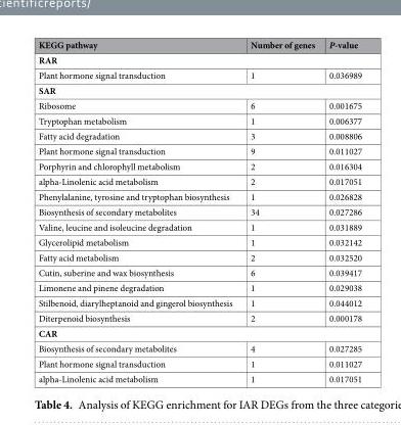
<table><thead><tr><td>KEGG pathway</td><td>Number of genes</td><td>P-value</td></tr></thead><tbody><tr><td colspan="3">RAR</td></tr><tr><td>Plant hormone signal transduction</td><td>1</td><td>0.036989</td></tr><tr><td colspan="3">SAR</td></tr><tr><td>Ribosome</td><td>6</td><td>0.001675</td></tr><tr><td>Tryptophan metabolism</td><td>1</td><td>0.006377</td></tr><tr><td>Fatty acid degradation</td><td>3</td><td>0.008806</td></tr><tr><td>Plant hormone signal transduction</td><td>9</td><td>0.011027</td></tr><tr><td>Porphyrin and chlorophyll metabolism</td><td>2</td><td>0.016304</td></tr><tr><td>alpha-Linolenic acid metabolism</td><td>2</td><td>0.017051</td></tr><tr><td>Phenylalanine, tyrosine and tryptophan biosynthesis</td><td>1</td><td>0.026828</td></tr><tr><td>Biosynthesis of secondary metabolites</td><td>34</td><td>0.027286</td></tr><tr><td>Valine, leucine and isoleucine degradation</td><td>1</td><td>0.031889</td></tr><tr><td>Glycerolipid metabolism</td><td>1</td><td>0.032142</td></tr><tr><td>Fatty acid metabolism</td><td>2</td><td>0.032520</td></tr><tr><td>Cutin, suberine and wax biosynthesis</td><td>6</td><td>0.039417</td></tr><tr><td>Limonene and pinene degradation</td><td>1</td><td>0.029038</td></tr><tr><td>Stilbenoid, diarylheptanoid and gingerol biosynthesis</td><td>1</td><td>0.044012</td></tr><tr><td>Diterpenoid biosynthesis</td><td>2</td><td>0.000178</td></tr><tr><td colspan="3">CAR</td></tr><tr><td>Biosynthesis of secondary metabolites</td><td>4</td><td>0.027285</td></tr><tr><td>Plant hormone signal transduction</td><td>1</td><td>0.011027</td></tr><tr><td>alpha-Linolenic acid metabolism</td><td>1</td><td>0.017051</td></tr></tbody></table>